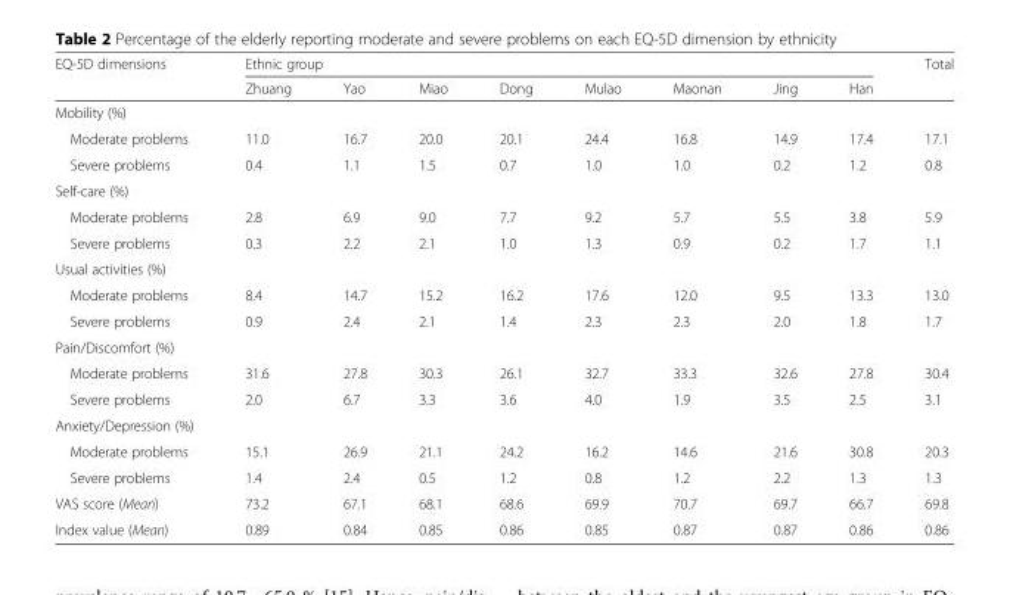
<table><thead><tr><td rowspan="2">EQ-5D dimensions</td><td colspan="8">Ethnic group</td><td rowspan="2">Total</td></tr><tr><td>Zhuang</td><td>Yao</td><td>Miao</td><td>Dong</td><td>Mulao</td><td>Maonan</td><td>Jing</td><td>Han</td></tr></thead><tbody><tr><td colspan="10">Mobility (%)</td></tr><tr><td>Moderate problems</td><td>11.0</td><td>16.7</td><td>20.0</td><td>20.1</td><td>24.4</td><td>16.8</td><td>14.9</td><td>17.4</td><td>17.1</td></tr><tr><td>Severe problems</td><td>0.4</td><td>1.1</td><td>1.5</td><td>0.7</td><td>1.0</td><td>1.0</td><td>0.2</td><td>1.2</td><td>0.8</td></tr><tr><td colspan="10">Self-care (%)</td></tr><tr><td>Moderate problems</td><td>2.8</td><td>6.9</td><td>9.0</td><td>7.7</td><td>9.2</td><td>5.7</td><td>5.5</td><td>3.8</td><td>5.9</td></tr><tr><td>Severe problems</td><td>0.3</td><td>2.2</td><td>2.1</td><td>1.0</td><td>1.3</td><td>0.9</td><td>0.2</td><td>1.7</td><td>1.1</td></tr><tr><td colspan="10">Usual activities (%)</td></tr><tr><td>Moderate problems</td><td>8.4</td><td>14.7</td><td>15.2</td><td>16.2</td><td>17.6</td><td>12.0</td><td>9.5</td><td>13.3</td><td>13.0</td></tr><tr><td>Severe problems</td><td>0.9</td><td>2.4</td><td>2.1</td><td>1.4</td><td>2.3</td><td>2.3</td><td>2.0</td><td>1.8</td><td>1.7</td></tr><tr><td colspan="10">Pain/Discomfort (%)</td></tr><tr><td>Moderate problems</td><td>31.6</td><td>27.8</td><td>30.3</td><td>26.1</td><td>32.7</td><td>33.3</td><td>32.6</td><td>27.8</td><td>30.4</td></tr><tr><td>Severe problems</td><td>2.0</td><td>6.7</td><td>3.3</td><td>3.6</td><td>4.0</td><td>1.9</td><td>3.5</td><td>2.5</td><td>3.1</td></tr><tr><td colspan="10">Anxiety/Depression (%)</td></tr><tr><td>Moderate problems</td><td>15.1</td><td>26.9</td><td>21.1</td><td>24.2</td><td>16.2</td><td>14.6</td><td>21.6</td><td>30.8</td><td>20.3</td></tr><tr><td>Severe problems</td><td>1.4</td><td>2.4</td><td>0.5</td><td>1.2</td><td>0.8</td><td>1.2</td><td>2.2</td><td>1.3</td><td>1.3</td></tr><tr><td>VAS score (Mean)</td><td>73.2</td><td>67.1</td><td>68.1</td><td>68.6</td><td>69.9</td><td>70.7</td><td>69.7</td><td>66.7</td><td>69.8</td></tr><tr><td>Index value (Mean)</td><td>0.89</td><td>0.84</td><td>0.85</td><td>0.86</td><td>0.85</td><td>0.87</td><td>0.87</td><td>0.86</td><td>0.86</td></tr></tbody></table>